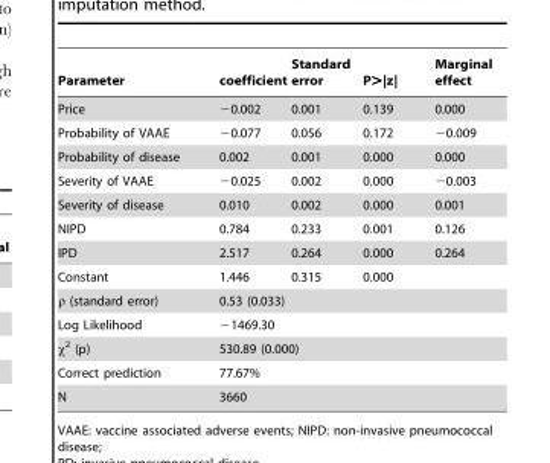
<table><thead><tr><td>Parameter</td><td>coefficient</td><td>Standard error</td><td>P&gt;|z|</td><td>Marginal effect</td></tr></thead><tbody><tr><td>Price</td><td>−0.002</td><td>0.001</td><td>0.139</td><td>0.000</td></tr><tr><td>Probability of VAAE</td><td>−0.077</td><td>0.056</td><td>0.172</td><td>−0.009</td></tr><tr><td>Probability of disease</td><td>0.002</td><td>0.001</td><td>0.000</td><td>0.000</td></tr><tr><td>Severity of VAAE</td><td>−0.025</td><td>0.002</td><td>0.000</td><td>−0.003</td></tr><tr><td>Severity of disease</td><td>0.010</td><td>0.002</td><td>0.000</td><td>0.001</td></tr><tr><td>NIPD</td><td>0.784</td><td>0.233</td><td>0.001</td><td>0.126</td></tr><tr><td>IPD</td><td>2.517</td><td>0.264</td><td>0.000</td><td>0.264</td></tr><tr><td>Constant</td><td>1.446</td><td>0.315</td><td>0.000</td><td></td></tr><tr><td>ρ (standard error)</td><td colspan="4">0.53 (0.033)</td></tr><tr><td>Log Likelihood</td><td colspan="4">−1469.30</td></tr><tr><td>x2 (p)</td><td colspan="4">530.89 (0.000)</td></tr><tr><td>Correct prediction</td><td colspan="4">77.67%</td></tr><tr><td>N</td><td colspan="4">3660</td></tr></tbody></table>